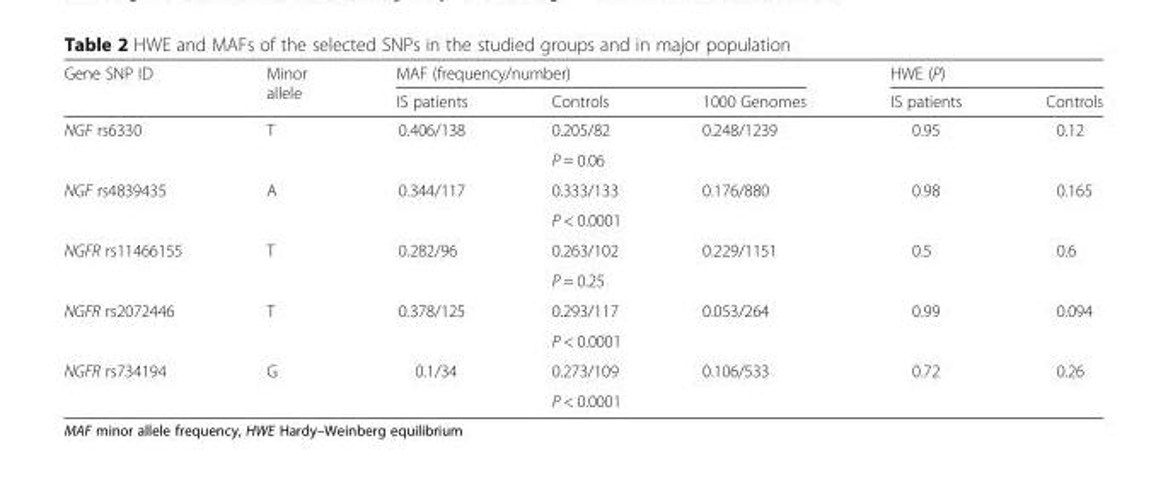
<table><thead><tr><td rowspan="2">Gene SNP ID</td><td rowspan="2">Minor allele</td><td colspan="3">MAF (frequency/number)</td><td colspan="2">HWE (P)</td></tr><tr><td>IS patients</td><td>Controls</td><td>1000 Genomes</td><td>IS patients</td><td>Controls</td></tr></thead><tbody><tr><td rowspan="2">NGF rs6330</td><td rowspan="2">T</td><td rowspan="2">0.406/138</td><td>0.205/82</td><td>0.248/1239</td><td rowspan="2">0.95</td><td rowspan="2">0.12</td></tr><tr><td colspan="2">P = 0.06</td></tr><tr><td rowspan="2">NGF rs4839435</td><td rowspan="2">A</td><td rowspan="2">0.344/117</td><td>0.333/133</td><td>0.176/880</td><td rowspan="2">0.98</td><td rowspan="2">0.165</td></tr><tr><td colspan="2">P &lt; 0.0001</td></tr><tr><td rowspan="2">NGFR rs11466155</td><td rowspan="2">T</td><td rowspan="2">0.282/96</td><td>0.263/102</td><td>0.229/1151</td><td rowspan="2">0.5</td><td rowspan="2">0.6</td></tr><tr><td colspan="2">P = 0.25</td></tr><tr><td rowspan="2">NGFR rs2072446</td><td rowspan="2">T</td><td rowspan="2">0.378/125</td><td>0.293/117</td><td>0.053/264</td><td rowspan="2">0.99</td><td rowspan="2">0.094</td></tr><tr><td colspan="2">P &lt; 0.0001</td></tr><tr><td rowspan="2">NGFR rs734194</td><td rowspan="2">G</td><td rowspan="2">0.1/34</td><td>0.273/109</td><td>0.106/533</td><td rowspan="2">0.72</td><td rowspan="2">0.26</td></tr><tr><td colspan="2">P &lt; 0.0001</td></tr></tbody></table>